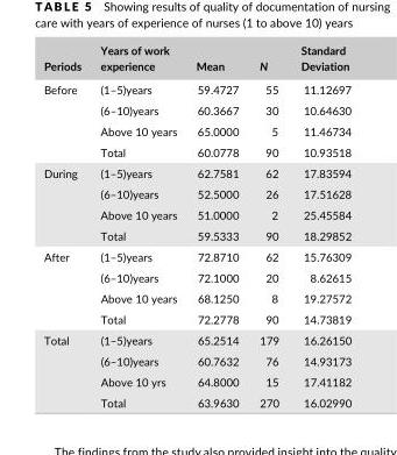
<table><thead><tr><td>Periods</td><td>Years of work experience</td><td>Mean</td><td>N</td><td>Standard Deviation</td></tr></thead><tbody><tr><td rowspan="4">Before</td><td>(1–5)years</td><td>59.4727</td><td>55</td><td>11.12697</td></tr><tr><td>(6–10)years</td><td>60.3667</td><td>30</td><td>10.64630</td></tr><tr><td>Above 10 years</td><td>65.0000</td><td>5</td><td>11.46734</td></tr><tr><td>Total</td><td>60.0778</td><td>90</td><td>10.93518</td></tr><tr><td rowspan="4">During</td><td>(1–5)years</td><td>62.7581</td><td>62</td><td>17.83594</td></tr><tr><td>(6–10)years</td><td>52.5000</td><td>26</td><td>17.51628</td></tr><tr><td>Above 10 years</td><td>51.0000</td><td>2</td><td>25.45584</td></tr><tr><td>Total</td><td>59.5333</td><td>90</td><td>18.29852</td></tr><tr><td rowspan="4">After</td><td>(1–5)years</td><td>72.8710</td><td>62</td><td>15.76309</td></tr><tr><td>(6–10)years</td><td>72.1000</td><td>20</td><td>8.62615</td></tr><tr><td>Above 10 years</td><td>68.1250</td><td>8</td><td>19.27572</td></tr><tr><td>Total</td><td>72.2778</td><td>90</td><td>14.73819</td></tr><tr><td rowspan="4">Total</td><td>(1–5)years</td><td>65.2514</td><td>179</td><td>16.26150</td></tr><tr><td>(6–10)years</td><td>60.7632</td><td>76</td><td>14.93173</td></tr><tr><td>Above 10 yrs</td><td>64.8000</td><td>15</td><td>17.41182</td></tr><tr><td>Total</td><td>63.9630</td><td>270</td><td>16.02990</td></tr></tbody></table>